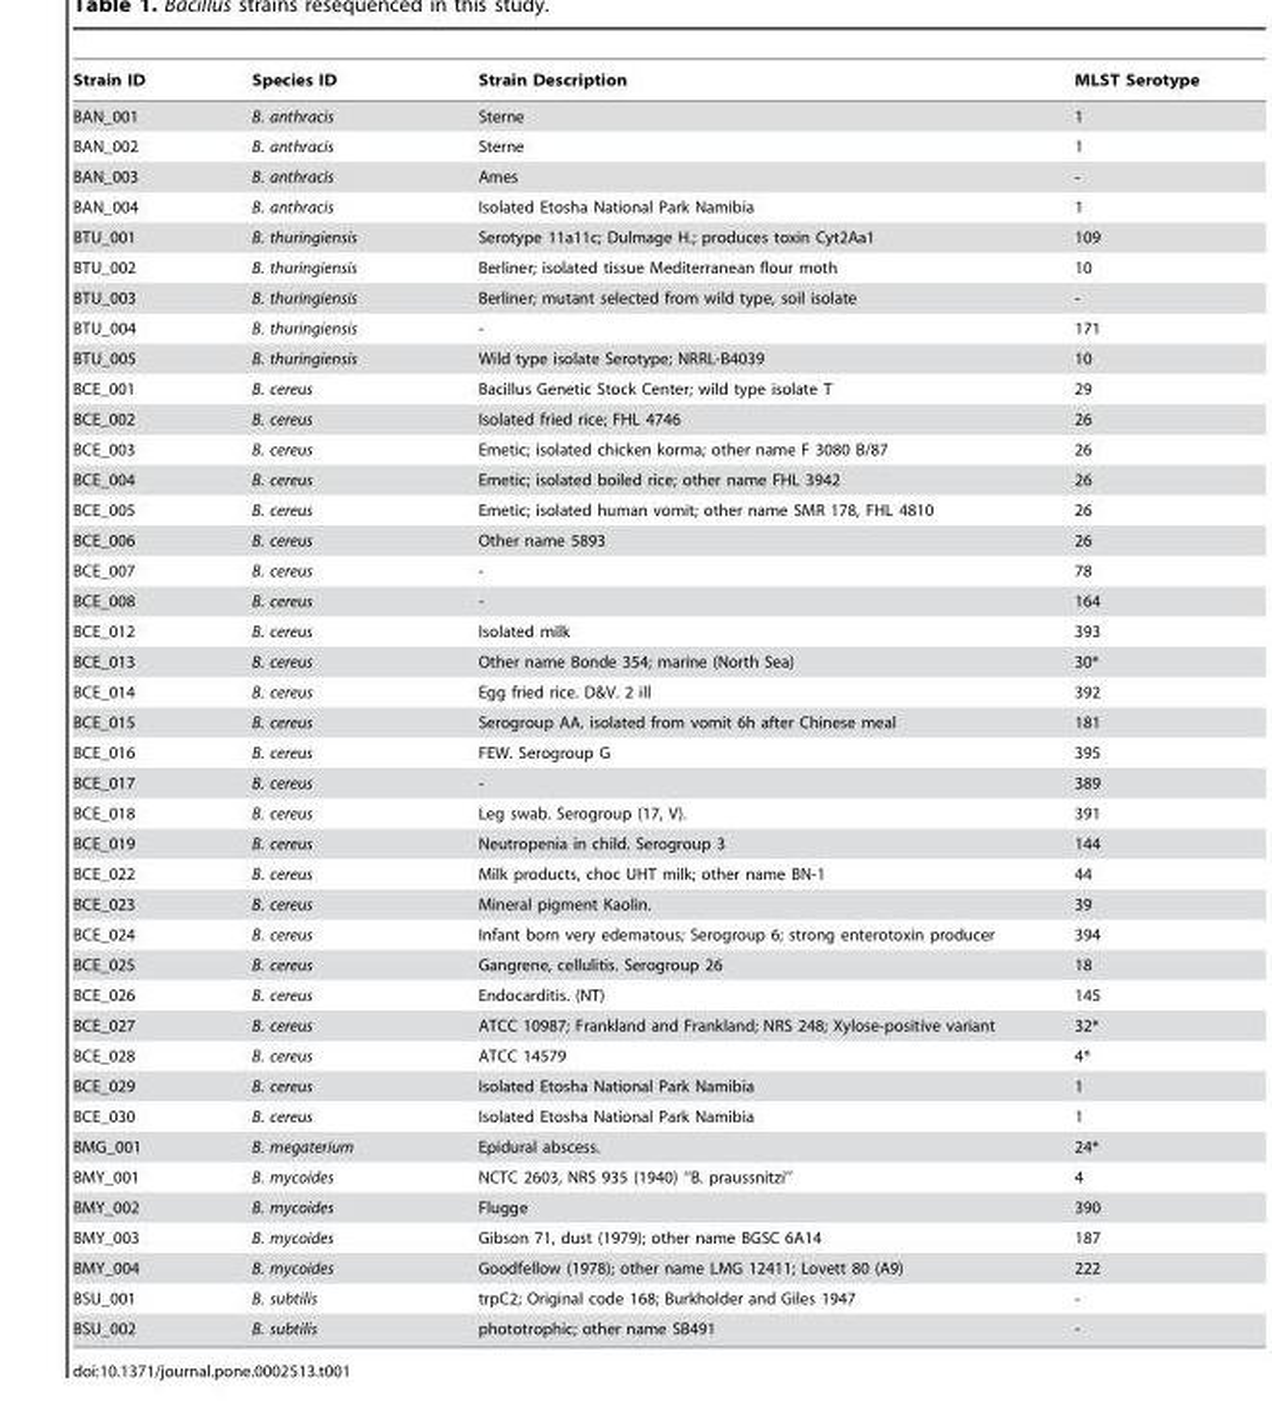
<table><thead><tr><td>Strain ID</td><td>Species ID</td><td>Strain Description</td><td>MLST Serotype</td></tr></thead><tbody><tr><td>BAN_001</td><td>B. anthracis</td><td>Sterne</td><td>1</td></tr><tr><td>BAN_002</td><td>B. anthracis</td><td>Sterne</td><td>1</td></tr><tr><td>BAN_003</td><td>B. anthracis</td><td>Ames</td><td>-</td></tr><tr><td>BAN_004</td><td>B. anthracis</td><td>Isolated Etosha National Park Namibia</td><td>1</td></tr><tr><td>BTU_001</td><td>B. thuringiensis</td><td>Serotype 11a11c; Dulmage H.; produces toxin Cyt2Aa1</td><td>109</td></tr><tr><td>BTU_002</td><td>B. thuringiensis</td><td>Berliner; isolated tissue Mediterranean flour moth</td><td>10</td></tr><tr><td>BTU_003</td><td>B. thuringiensis</td><td>Berliner; mutant selected from wild type, soil isolate</td><td>-</td></tr><tr><td>BTU_004</td><td>B. thuringiensis</td><td>-</td><td>171</td></tr><tr><td>BTU_005</td><td>B. thuringiensis</td><td>Wild type isolate Serotype; NRRL-B4039</td><td>10</td></tr><tr><td>BCE_001</td><td>B. cereus</td><td>Bacillus Genetic Stock Center; wild type isolate T</td><td>29</td></tr><tr><td>BCE_002</td><td>B. cereus</td><td>Isolated fried rice; FHL 4746</td><td>26</td></tr><tr><td>BCE_003</td><td>B. cereus</td><td>Emetic; isolated chicken korma; other name F 3080 B/87</td><td>26</td></tr><tr><td>BCE_004</td><td>B. cereus</td><td>Emetic; isolated boiled rice; other name FHL 3942</td><td>26</td></tr><tr><td>BCE_005</td><td>B. cereus</td><td>Emetic; isolated human vomit; other name SMR 178, FHL 4810</td><td>26</td></tr><tr><td>BCE_006</td><td>B. cereus</td><td>Other name 5893</td><td>26</td></tr><tr><td>BCE_007</td><td>B. cereus</td><td>-</td><td>78</td></tr><tr><td>BCE_008</td><td>B. cereus</td><td>-</td><td>164</td></tr><tr><td>BCE_012</td><td>B. cereus</td><td>Isolated milk</td><td>393</td></tr><tr><td>BCE_013</td><td>B. cereus</td><td>Other name Bonde 354; marine (North Sea)</td><td>30*</td></tr><tr><td>BCE_014</td><td>B. cereus</td><td>Egg fried rice. D&amp;V. 2 ill</td><td>392</td></tr><tr><td>BCE_015</td><td>B. cereus</td><td>Serogroup AA. isolated from vomit 6h after Chinese meal</td><td>181</td></tr><tr><td>BCE_016</td><td>B. cereus</td><td>FEW. Serogroup G</td><td>395</td></tr><tr><td>BCE_017</td><td>B. cereus</td><td>-</td><td>389</td></tr><tr><td>BCE_018</td><td>B. cereus</td><td>Leg swab. Serogroup (17, V).</td><td>391</td></tr><tr><td>BCE_019</td><td>B. cereus</td><td>Neutropenia in child. Serogroup 3</td><td>144</td></tr><tr><td>BCE_022</td><td>B. cereus</td><td>Milk products, choc UHT milk; other name BN-1</td><td>44</td></tr><tr><td>BCE_023</td><td>B. cereus</td><td>Mineral pigment Kaolin.</td><td>39</td></tr><tr><td>BCE_024</td><td>B. cereus</td><td>Infant born very edematous; Serogroup 6; strong enterotoxin producer</td><td>394</td></tr><tr><td>BCE_025</td><td>B. cereus</td><td>Gangrene, cellulitis. Serogroup 26</td><td>18</td></tr><tr><td>BCE_026</td><td>B. cereus</td><td>Endocarditis. (NT)</td><td>145</td></tr><tr><td>BCE_027</td><td>B. cereus</td><td>ATCC 10987; Frankland and Frankland; NRS 248; Xylose-positive variant</td><td>32*</td></tr><tr><td>BCE_028</td><td>B. cereus</td><td>ATCC 14579</td><td>4*</td></tr><tr><td>BCE_029</td><td>B. cereus</td><td>Isolated Etosha National Park Namibia</td><td>1</td></tr><tr><td>BCE_030</td><td>B. cereus</td><td>Isolated Etosha National Park Namibia</td><td>1</td></tr><tr><td>BMG_001</td><td>B. megaterium</td><td>Epidural abscess.</td><td>24*</td></tr><tr><td>BMY_001</td><td>B. mycoides</td><td>NCTC 2603, NRS 935 (1940) ‘‘B. praussnitzi’’</td><td>4</td></tr><tr><td>BMY_002</td><td>B. mycoides</td><td>Flugge</td><td>390</td></tr><tr><td>BMY_003</td><td>B. mycoides</td><td>Gibson 71, dust (1979); other name BGSC 6A14</td><td>187</td></tr><tr><td>BMY_004</td><td>B. mycoides</td><td>Goodfellow (1978); other name LMG 12411; Lovett 80 (A9)</td><td>222</td></tr><tr><td>BSU_001</td><td>B. subtilis</td><td>trpC2; Original code 168; Burkholder and Giles 1947</td><td>-</td></tr><tr><td>BSU_002</td><td>B. subtilis</td><td>phototrophic; other name SB491</td><td>-</td></tr></tbody></table>